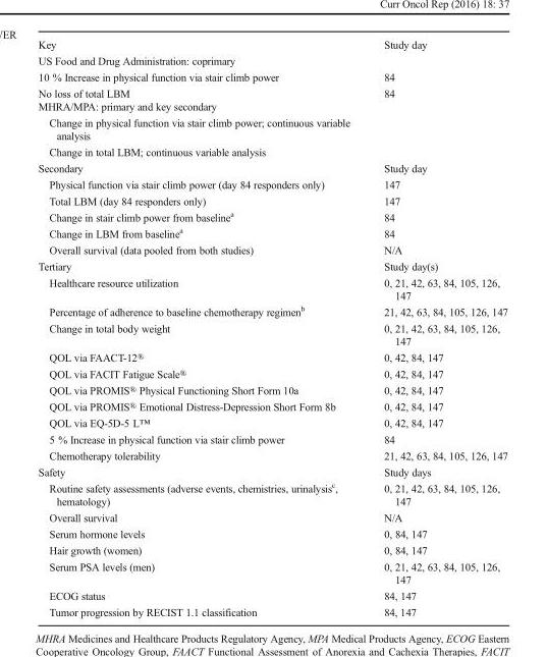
<table><tbody><tr><td>Key</td><td>Study day</td></tr><tr><td colspan="2">US Food and Drug Administration: coprimary</td></tr><tr><td>10 % Increase in physical function via stair climb power</td><td>84</td></tr><tr><td>No loss of total LBM</td><td rowspan="4">84</td></tr><tr><td>MHRA/MPA: primary and key secondary</td></tr><tr><td>Change in physical function via stair climb power; continuous variable analysis</td></tr><tr><td>Change in total LBM; continuous variable analysis</td></tr><tr><td>Secondary</td><td>Study day</td></tr><tr><td>Physical function via stair climb power (day 84 responders only)</td><td>147</td></tr><tr><td>Total LBM (day 84 responders only)</td><td>147</td></tr><tr><td>Change in stair climb power from baseline<sup>a</sup></td><td>84</td></tr><tr><td>Change in LBM from baseline<sup>a</sup></td><td>84</td></tr><tr><td>Overall survival (data pooled from both studies)</td><td>N/A</td></tr><tr><td>Tertiary</td><td>Study day(s)</td></tr><tr><td>Healthcare resource utilization</td><td>0, 21, 42, 63, 84, 105, 126, 147</td></tr><tr><td>Percentage of adherence to baseline chemotherapy regimen<sup>b</sup></td><td>21, 42, 63, 84, 105, 126, 147</td></tr><tr><td>Change in total body weight</td><td>0, 21, 42, 63, 84, 105, 126, 147</td></tr><tr><td>QOL via FAACT-12®</td><td>0, 42, 84, 147</td></tr><tr><td>QOL via FACIT Fatigue Scale®</td><td>0, 42, 84, 147</td></tr><tr><td>QOL via PROMIS® Physical Functioning Short Form 10a</td><td>0, 42, 84, 147</td></tr><tr><td>QOL via PROMIS® Emotional Distress-Depression Short Form 8b</td><td>0, 42, 84, 147</td></tr><tr><td>QOL via EQ-5D-5 L™</td><td>0, 42, 84, 147</td></tr><tr><td>5 % Increase in physical function via stair climb power</td><td>84</td></tr><tr><td>Chemotherapy tolerability</td><td>21, 42, 63, 84, 105, 126, 147</td></tr><tr><td>Safety</td><td>Study days</td></tr><tr><td>Routine safety assessments (adverse events, chemistries, urinalysis<sup>c</sup>, hematology)</td><td>0, 21, 42, 63, 84, 105, 126, 147</td></tr><tr><td>Overall survival</td><td>N/A</td></tr><tr><td>Serum hormone levels</td><td>0, 84, 147</td></tr><tr><td>Hair growth (women)</td><td>0, 84, 147</td></tr><tr><td>Serum PSA levels (men)</td><td>0, 21, 42, 63, 84, 105, 126, 147</td></tr><tr><td>ECOG status</td><td>84, 147</td></tr><tr><td>Tumor progression by RECIST 1.1 classification</td><td>84, 147</td></tr></tbody></table>